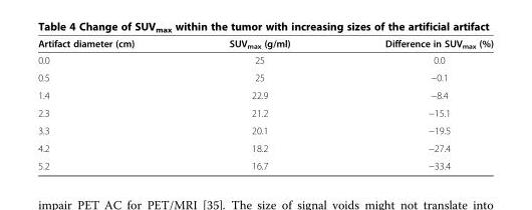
<table><thead><tr><td>Artifact diameter (cm)</td><td>SUV<sub>max</sub> (g/ml)</td><td>Difference in SUV<sub>max</sub> (%)</td></tr></thead><tbody><tr><td>0.0</td><td>25</td><td>0.0</td></tr><tr><td>0.5</td><td>25</td><td>−0.1</td></tr><tr><td>1.4</td><td>22.9</td><td>−8.4</td></tr><tr><td>2.3</td><td>21.2</td><td>−15.1</td></tr><tr><td>3.3</td><td>20.1</td><td>−19.5</td></tr><tr><td>4.2</td><td>18.2</td><td>−27.4</td></tr><tr><td>5.2</td><td>16.7</td><td>−33.4</td></tr></tbody></table>